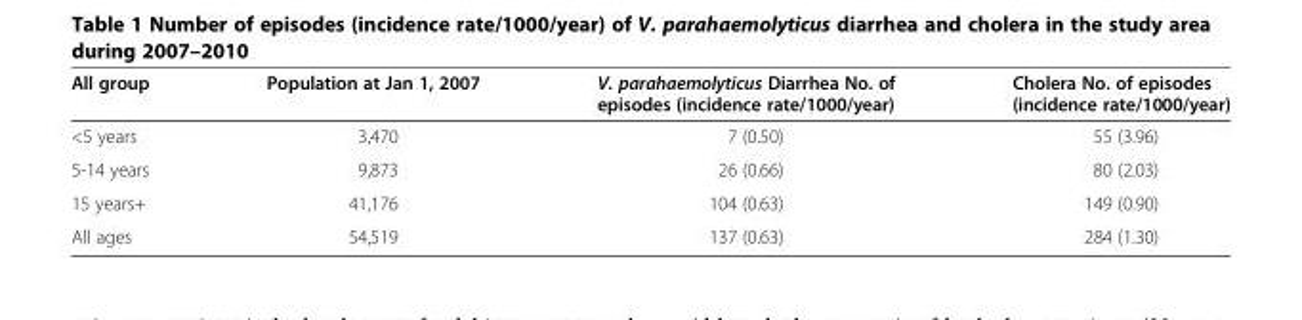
<table><thead><tr><td>All group</td><td>Population at Jan 1, 2007</td><td>V. parahaemolyticus Diarrhea No. of episodes (incidence rate/1000/year)</td><td>Cholera No. of episodes (incidence rate/1000/year)</td></tr></thead><tbody><tr><td>&lt;5 years</td><td>3,470</td><td>7 (0.50)</td><td>55 (3.96)</td></tr><tr><td>5-14 years</td><td>9,873</td><td>26 (0.66)</td><td>80 (2.03)</td></tr><tr><td>15 years+</td><td>41,176</td><td>104 (0.63)</td><td>149 (0.90)</td></tr><tr><td>All ages</td><td>54,519</td><td>137 (0.63)</td><td>284 (1.30)</td></tr></tbody></table>